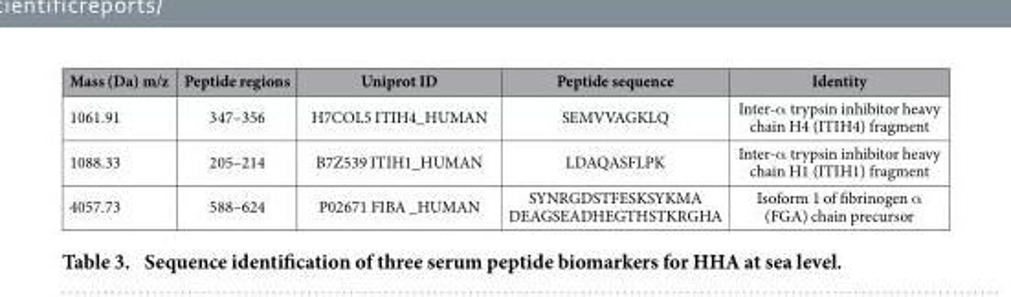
<table><thead><tr><td>Mass (Da) m/z</td><td>Peptide regions</td><td>Uniprot ID</td><td>Peptide sequence</td><td>Identity</td></tr></thead><tbody><tr><td>1061.91</td><td>347–356</td><td>H7COL5 ITIH4_HUMAN</td><td>SEMVVAGKLQ</td><td>Inter-α trypsin inhibitor heavy chain H4 (ITIH4) fragment</td></tr><tr><td>1088.33</td><td>205–214</td><td>B7Z539 ITIH1_HUMAN</td><td>LDAQASFLPK</td><td>Inter-α trypsin inhibitor heavy chain H1 (ITIH1) fragment</td></tr><tr><td>4057.73</td><td>588–624</td><td>P02671 FIBA _HUMAN</td><td>SYNRGDSTFESKSYKMA DEAGSEADHEGTHSTKRGHA</td><td>Isoform 1 of fibrinogen α (FGA) chain precursor</td></tr></tbody></table>